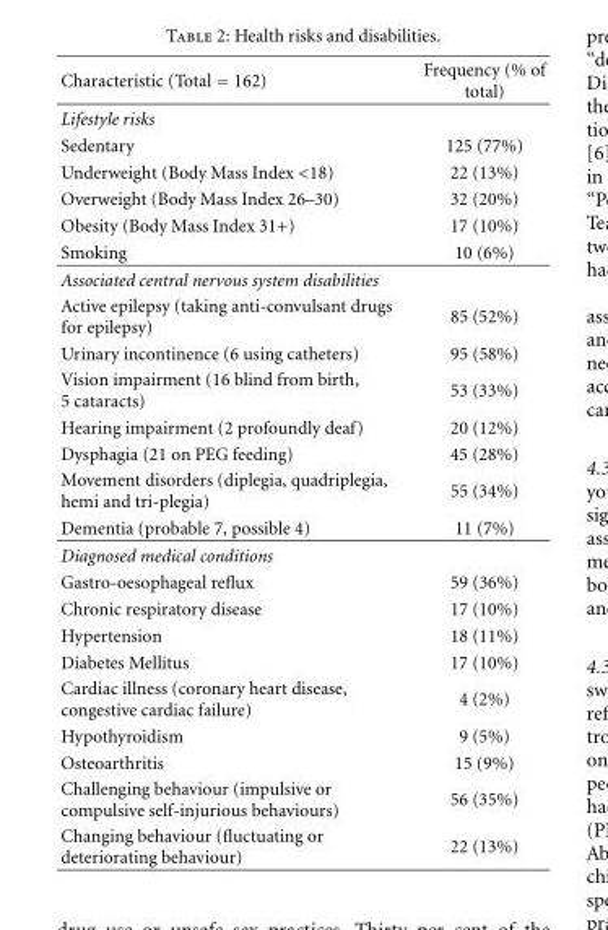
<table><thead><tr><td>Characteristic (Total = 162)</td><td>Frequency (% of total)</td></tr></thead><tbody><tr><td colspan="2">Lifestyle risks</td></tr><tr><td>Sedentary</td><td>125 (77%)</td></tr><tr><td>Underweight (Body Mass Index &lt;18)</td><td>22 (13%)</td></tr><tr><td>Overweight (Body Mass Index 26–30)</td><td>32 (20%)</td></tr><tr><td>Obesity (Body Mass Index 31+)</td><td>17 (10%)</td></tr><tr><td>Smoking</td><td>10 (6%)</td></tr><tr><td colspan="2">Associated central nervous system disabilities</td></tr><tr><td>Active epilepsy (taking anti-convulsant drugs for epilepsy)</td><td>85 (52%)</td></tr><tr><td>Urinary incontinence (6 using catheters)</td><td>95 (58%)</td></tr><tr><td>Vision impairment (16 blind from birth, 5 cataracts)</td><td>53 (33%)</td></tr><tr><td>Hearing impairment (2 profoundly deaf)</td><td>20 (12%)</td></tr><tr><td>Dysphagia (21 on PEG feeding)</td><td>45 (28%)</td></tr><tr><td>Movement disorders (diplegia, quadriplegia, hemi and tri-plegia)</td><td>55 (34%)</td></tr><tr><td>Dementia (probable 7, possible 4)</td><td>11 (7%)</td></tr><tr><td colspan="2">Diagnosed medical conditions</td></tr><tr><td>Gastro-oesophageal reflux</td><td>59 (36%)</td></tr><tr><td>Chronic respiratory disease</td><td>17 (10%)</td></tr><tr><td>Hypertension</td><td>18 (11%)</td></tr><tr><td>Diabetes Mellitus</td><td>17 (10%)</td></tr><tr><td>Cardiac illness (coronary heart disease, congestive cardiac failure)</td><td>4 (2%)</td></tr><tr><td>Hypothyroidism</td><td>9 (5%)</td></tr><tr><td>Osteoarthritis</td><td>15 (9%)</td></tr><tr><td>Challenging behaviour (impulsive or compulsive self-injurious behaviours)</td><td>56 (35%)</td></tr><tr><td>Changing behaviour (fluctuating or deteriorating behaviour)</td><td>22 (13%)</td></tr></tbody></table>